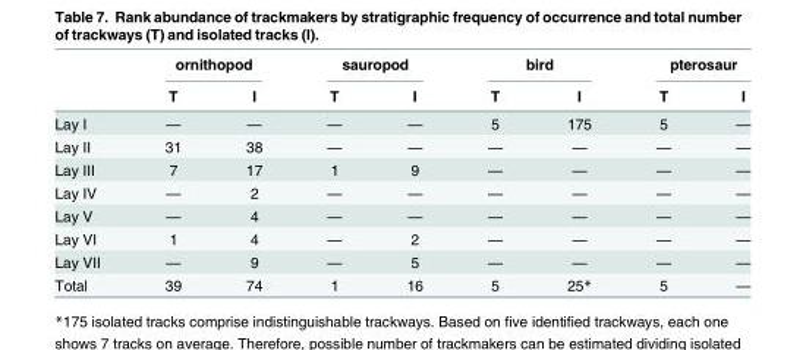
<table><thead><tr><td rowspan="2"></td><td colspan="2">ornithopod</td><td colspan="2">sauropod</td><td colspan="2">bird</td><td colspan="2">pterosaur</td></tr><tr><td>T</td><td>I</td><td>T</td><td>I</td><td>T</td><td>I</td><td>T</td><td>I</td></tr></thead><tbody><tr><td>Lay I</td><td>—</td><td>—</td><td>—</td><td>—</td><td>5</td><td>175</td><td>5</td><td>—</td></tr><tr><td>Lay II</td><td>31</td><td>38</td><td>—</td><td>—</td><td>—</td><td>—</td><td>—</td><td>—</td></tr><tr><td>Lay III</td><td>7</td><td>17</td><td>1</td><td>9</td><td>—</td><td>—</td><td>—</td><td>—</td></tr><tr><td>Lay IV</td><td>—</td><td>2</td><td>—</td><td>—</td><td>—</td><td>—</td><td>—</td><td>—</td></tr><tr><td>Lay V</td><td>—</td><td>4</td><td>—</td><td>—</td><td>—</td><td>—</td><td>—</td><td>—</td></tr><tr><td>Lay VI</td><td>1</td><td>4</td><td>—</td><td>2</td><td>—</td><td>—</td><td>—</td><td>—</td></tr><tr><td>Lay VII</td><td>—</td><td>9</td><td>—</td><td>5</td><td>—</td><td>—</td><td>—</td><td>—</td></tr><tr><td>Total</td><td>39</td><td>74</td><td>1</td><td>16</td><td>5</td><td>25*</td><td>5</td><td>—</td></tr></tbody></table>